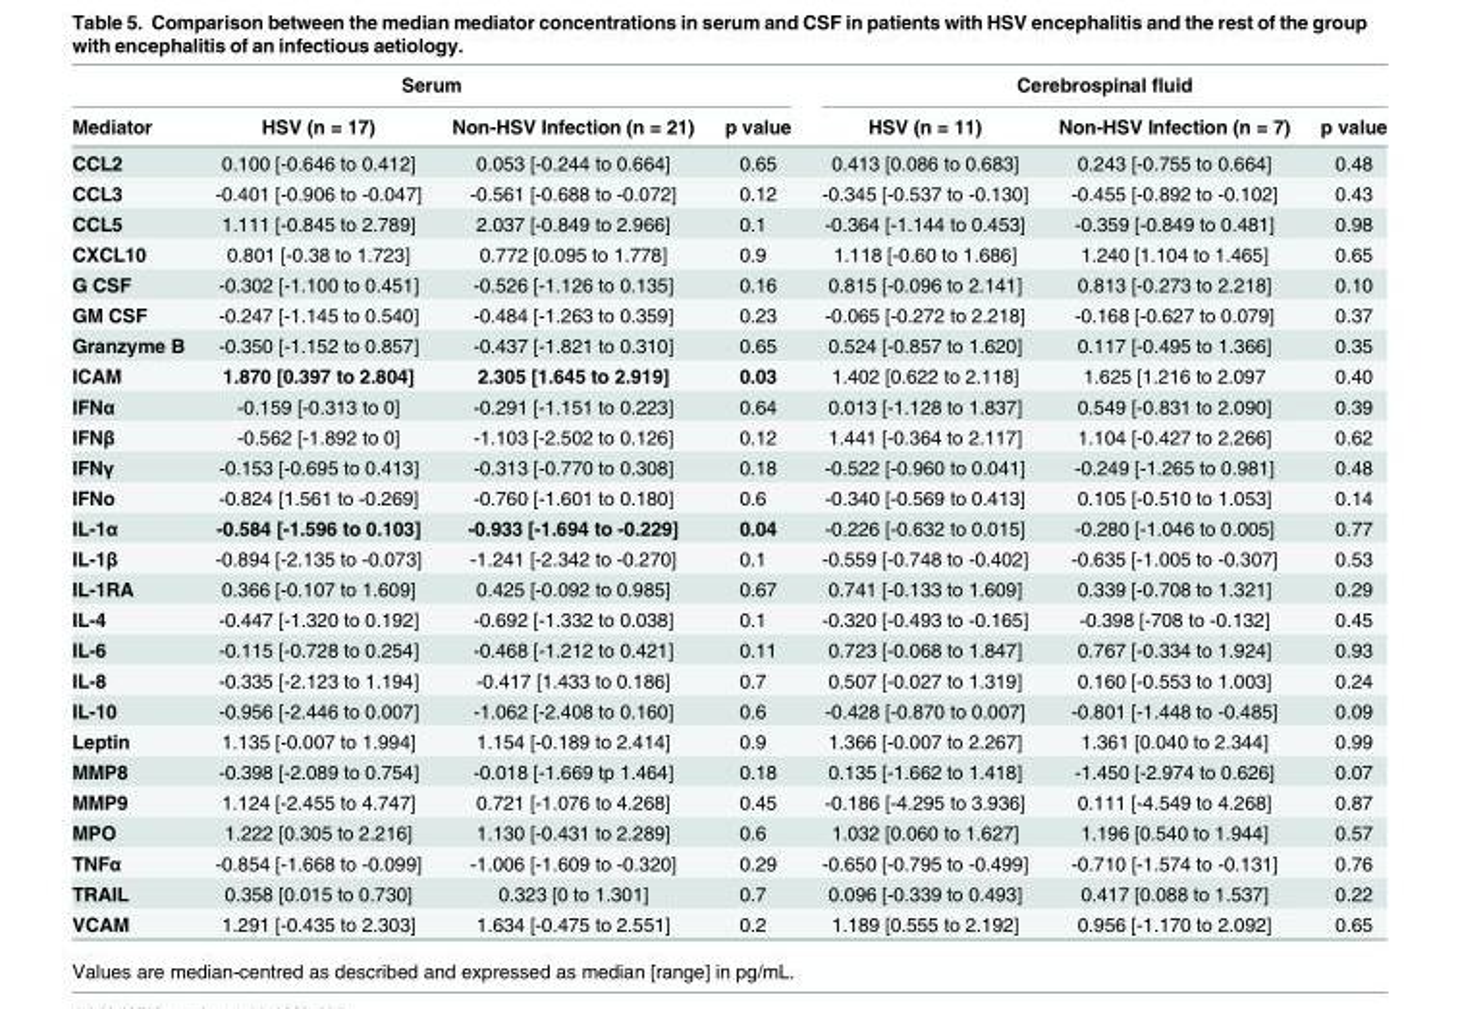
<table><thead><tr><td colspan="4">Serum</td><td colspan="3">Cerebrospinal fluid</td></tr><tr><td>Mediator</td><td>HSV (n = 17)</td><td>Non-HSV Infection (n = 21)</td><td>p value</td><td>HSV (n = 11)</td><td>Non-HSV Infection (n = 7)</td><td>p value</td></tr></thead><tbody><tr><td>CCL2</td><td>0.100 [-0.646 to 0.412]</td><td>0.053 [-0.244 to 0.664]</td><td>0.65</td><td>0.413 [0.086 to 0.683]</td><td>0.243 [-0.755 to 0.664]</td><td>0.48</td></tr><tr><td>CCL3</td><td>-0.401 [-0.906 to -0.047]</td><td>-0.561 [-0.688 to -0.072]</td><td>0.12</td><td>-0.345 [-0.537 to -0.130]</td><td>-0.455 [-0.892 to -0.102]</td><td>0.43</td></tr><tr><td>CCL5</td><td>1.111 [-0.845 to 2.789]</td><td>2.037 [-0.849 to 2.966]</td><td>0.1</td><td>-0.364 [-1.144 to 0.453]</td><td>-0.359 [-0.849 to 0.481]</td><td>0.98</td></tr><tr><td>CXCL10</td><td>0.801 [-0.38 to 1.723]</td><td>0.772 [0.095 to 1.778]</td><td>0.9</td><td>1.118 [-0.60 to 1.686]</td><td>1.240 [1.104 to 1.465]</td><td>0.65</td></tr><tr><td>G CSF</td><td>-0.302 [-1.100 to 0.451]</td><td>-0.526 [-1.126 to 0.135]</td><td>0.16</td><td>0.815 [-0.096 to 2.141]</td><td>0.813 [-0.273 to 2.218]</td><td>0.10</td></tr><tr><td>GM CSF</td><td>-0.247 [-1.145 to 0.540]</td><td>-0.484 [-1.263 to 0.359]</td><td>0.23</td><td>-0.065 [-0.272 to 2.218]</td><td>-0.168 [-0.627 to 0.079]</td><td>0.37</td></tr><tr><td>Granzyme B</td><td>-0.350 [-1.152 to 0.857]</td><td>-0.437 [-1.821 to 0.310]</td><td>0.65</td><td>0.524 [-0.857 to 1.620]</td><td>0.117 [-0.495 to 1.366]</td><td>0.35</td></tr><tr><td>ICAM</td><td>1.870 [0.397 to 2.804]</td><td>2.305 [1.645 to 2.919]</td><td>0.03</td><td>1.402 [0.622 to 2.118]</td><td>1.625 [1.216 to 2.097</td><td>0.40</td></tr><tr><td>IFNα</td><td>-0.159 [-0.313 to 0]</td><td>-0.291 [-1.151 to 0.223]</td><td>0.64</td><td>0.013 [-1.128 to 1.837]</td><td>0.549 [-0.831 to 2.090]</td><td>0.39</td></tr><tr><td>IFNβ</td><td>-0.562 [-1.892 to 0]</td><td>-1.103 [-2.502 to 0.126]</td><td>0.12</td><td>1.441 [-0.364 to 2.117]</td><td>1.104 [-0.427 to 2.266]</td><td>0.62</td></tr><tr><td>IFNγ</td><td>-0.153 [-0.695 to 0.413]</td><td>-0.313 [-0.770 to 0.308]</td><td>0.18</td><td>-0.522 [-0.960 to 0.041]</td><td>-0.249 [-1.265 to 0.981]</td><td>0.48</td></tr><tr><td>IFNo</td><td>-0.824 [1.561 to -0.269]</td><td>-0.760 [-1.601 to 0.180]</td><td>0.6</td><td>-0.340 [-0.569 to 0.413]</td><td>0.105 [-0.510 to 1.053]</td><td>0.14</td></tr><tr><td>IL-1α</td><td>-0.584 [-1.596 to 0.103]</td><td>-0.933 [-1.694 to -0.229]</td><td>0.04</td><td>-0.226 [-0.632 to 0.015]</td><td>-0.280 [-1.046 to 0.005]</td><td>0.77</td></tr><tr><td>IL-1β</td><td>-0.894 [-2.135 to -0.073]</td><td>-1.241 [-2.342 to -0.270]</td><td>0.1</td><td>-0.559 [-0.748 to -0.402]</td><td>-0.635 [-1.005 to -0.307]</td><td>0.53</td></tr><tr><td>IL-1RA</td><td>0.366 [-0.107 to 1.609]</td><td>0.425 [-0.092 to 0.985]</td><td>0.67</td><td>0.741 [-0.133 to 1.609]</td><td>0.339 [-0.708 to 1.321]</td><td>0.29</td></tr><tr><td>IL-4</td><td>-0.447 [-1.320 to 0.192]</td><td>-0.692 [-1.332 to 0.038]</td><td>0.1</td><td>-0.320 [-0.493 to -0.165]</td><td>-0.398 [-708 to -0.132]</td><td>0.45</td></tr><tr><td>IL-6</td><td>-0.115 [-0.728 to 0.254]</td><td>-0.468 [-1.212 to 0.421]</td><td>0.11</td><td>0.723 [-0.068 to 1.847]</td><td>0.767 [-0.334 to 1.924]</td><td>0.93</td></tr><tr><td>IL-8</td><td>-0.335 [-2.123 to 1.194]</td><td>-0.417 [1.433 to 0.186]</td><td>0.7</td><td>0.507 [-0.027 to 1.319]</td><td>0.160 [-0.553 to 1.003]</td><td>0.24</td></tr><tr><td>IL-10</td><td>-0.956 [-2.446 to 0.007]</td><td>-1.062 [-2.408 to 0.160]</td><td>0.6</td><td>-0.428 [-0.870 to 0.007]</td><td>-0.801 [-1.448 to -0.485]</td><td>0.09</td></tr><tr><td>Leptin</td><td>1.135 [-0.007 to 1.994]</td><td>1.154 [-0.189 to 2.414]</td><td>0.9</td><td>1.366 [-0.007 to 2.267]</td><td>1.361 [0.040 to 2.344]</td><td>0.99</td></tr><tr><td>MMP8</td><td>-0.398 [-2.089 to 0.754]</td><td>-0.018 [-1.669 tp 1.464]</td><td>0.18</td><td>0.135 [-1.662 to 1.418]</td><td>-1.450 [-2.974 to 0.626]</td><td>0.07</td></tr><tr><td>MMP9</td><td>1.124 [-2.455 to 4.747]</td><td>0.721 [-1.076 to 4.268]</td><td>0.45</td><td>-0.186 [-4.295 to 3.936]</td><td>0.111 [-4.549 to 4.268]</td><td>0.87</td></tr><tr><td>MPO</td><td>1.222 [0.305 to 2.216]</td><td>1.130 [-0.431 to 2.289]</td><td>0.6</td><td>1.032 [0.060 to 1.627]</td><td>1.196 [0.540 to 1.944]</td><td>0.57</td></tr><tr><td>TNFα</td><td>-0.854 [-1.668 to -0.099]</td><td>-1.006 [-1.609 to -0.320]</td><td>0.29</td><td>-0.650 [-0.795 to -0.499]</td><td>-0.710 [-1.574 to -0.131]</td><td>0.76</td></tr><tr><td>TRAIL</td><td>0.358 [0.015 to 0.730]</td><td>0.323 [0 to 1.301]</td><td>0.7</td><td>0.096 [-0.339 to 0.493]</td><td>0.417 [0.088 to 1.537]</td><td>0.22</td></tr><tr><td>VCAM</td><td>1.291 [-0.435 to 2.303]</td><td>1.634 [-0.475 to 2.551]</td><td>0.2</td><td>1.189 [0.555 to 2.192]</td><td>0.956 [-1.170 to 2.092]</td><td>0.65</td></tr></tbody></table>